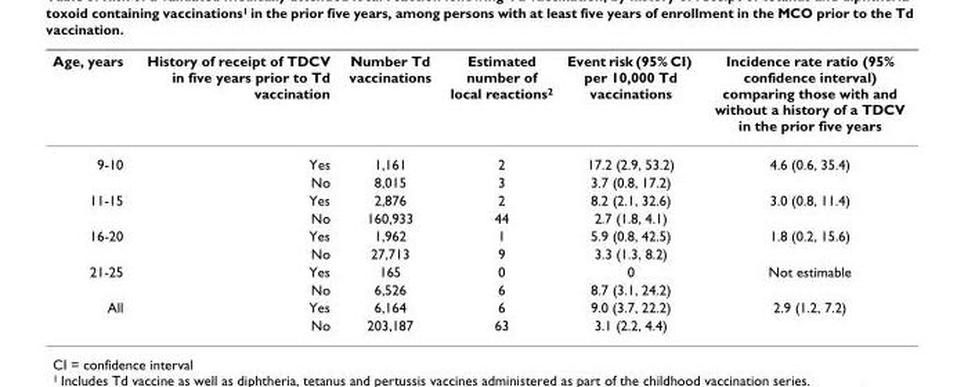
<table><thead><tr><td>Age, years</td><td>History of receipt of TDCV in five years prior to Td vaccination</td><td>Number Td vaccinations</td><td>Estimated number of local reactions<sup>2</sup></td><td>Event risk (95% CI) per 10,000 Td vaccinations</td><td>Incidence rate ratio (95% confidence interval) comparing those with and without a history of a TDCV in the prior five years</td></tr></thead><tbody><tr><td rowspan="2">9-10</td><td>Yes</td><td>1,161</td><td>2</td><td>17.2 (2.9, 53.2)</td><td>4.6 (0.6, 35.4)</td></tr><tr><td>No</td><td>8,015</td><td>3</td><td>3.7 (0.8, 17.2)</td><td></td></tr><tr><td rowspan="2">11-15</td><td>Yes</td><td>2,876</td><td>2</td><td>8.2 (2.1, 32.6)</td><td>3.0 (0.8, 11.4)</td></tr><tr><td>No</td><td>160,933</td><td>44</td><td>2.7 (1.8, 4.1)</td><td></td></tr><tr><td rowspan="2">16-20</td><td>Yes</td><td>1,962</td><td>1</td><td>5.9 (0.8, 42.5)</td><td>1.8 (0.2, 15.6)</td></tr><tr><td>No</td><td>27,713</td><td>9</td><td>3.3 (1.3, 8.2)</td><td></td></tr><tr><td rowspan="2">21-25</td><td>Yes</td><td>165</td><td>0</td><td>0</td><td>Not estimable</td></tr><tr><td>No</td><td>6,526</td><td>6</td><td>8.7 (3.1, 24.2)</td><td></td></tr><tr><td rowspan="2">All</td><td>Yes</td><td>6,164</td><td>6</td><td>9.0 (3.7, 22.2)</td><td>2.9 (1.2, 7.2)</td></tr><tr><td>No</td><td>203,187</td><td>63</td><td>3.1 (2.2, 4.4)</td><td></td></tr></tbody></table>